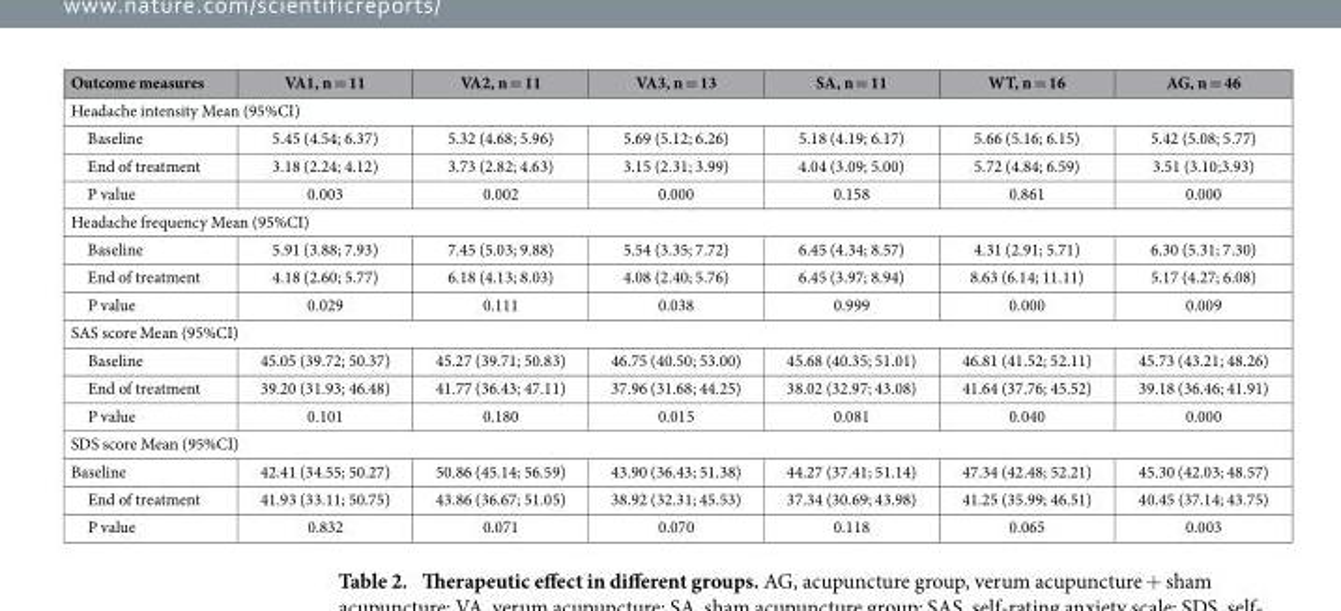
<table><thead><tr><td>Outcome measures</td><td>VA1, n = 11</td><td>VA2, n = 11</td><td>VA3, n = 13</td><td>SA, n = 11</td><td>WT, n = 16</td><td>AG, n = 46</td></tr></thead><tbody><tr><td colspan="7">Headache intensity Mean (95%CI)</td></tr><tr><td>Baseline</td><td>5.45 (4.54; 6.37)</td><td>5.32 (4.68; 5.96)</td><td>5.69 (5.12; 6.26)</td><td>5.18 (4.19; 6.17)</td><td>5.66 (5.16; 6.15)</td><td>5.42 (5.08; 5.77)</td></tr><tr><td>End of treatment</td><td>3.18 (2.24; 4.12)</td><td>3.73 (2.82; 4.63)</td><td>3.15 (2.31; 3.99)</td><td>4.04 (3.09; 5.00)</td><td>5.72 (4.84; 6.59)</td><td>3.51 (3.10;3.93)</td></tr><tr><td>P value</td><td>0.003</td><td>0.002</td><td>0.000</td><td>0.158</td><td>0.861</td><td>0.000</td></tr><tr><td colspan="7">Headache frequency Mean (95%CI)</td></tr><tr><td>Baseline</td><td>5.91 (3.88; 7.93)</td><td>7.45 (5.03; 9.88)</td><td>5.54 (3.35; 7.72)</td><td>6.45 (4.34; 8.57)</td><td>4.31 (2.91; 5.71)</td><td>6.30 (5.31; 7.30)</td></tr><tr><td>End of treatment</td><td>4.18 (2.60; 5.77)</td><td>6.18 (4.13; 8.03)</td><td>4.08 (2.40; 5.76)</td><td>6.45 (3.97; 8.94)</td><td>8.63 (6.14; 11.11)</td><td>5.17 (4.27; 6.08)</td></tr><tr><td>P value</td><td>0.029</td><td>0.111</td><td>0.038</td><td>0.999</td><td>0.000</td><td>0.009</td></tr><tr><td colspan="7">SAS score Mean (95%CI)</td></tr><tr><td>Baseline</td><td>45.05 (39.72; 50.37)</td><td>45.27 (39.71; 50.83)</td><td>46.75 (40.50; 53.00)</td><td>45.68 (40.35; 51.01)</td><td>46.81 (41.52; 52.11)</td><td>45.73 (43.21; 48.26)</td></tr><tr><td>End of treatment</td><td>39.20 (31.93; 46.48)</td><td>41.77 (36.43; 47.11)</td><td>37.96 (31.68; 44.25)</td><td>38.02 (32.97; 43.08)</td><td>41.64 (37.76; 45.52)</td><td>39.18 (36.46; 41.91)</td></tr><tr><td>P value</td><td>0.101</td><td>0.180</td><td>0.015</td><td>0.081</td><td>0.040</td><td>0.000</td></tr><tr><td colspan="7">SDS score Mean (95%CI)</td></tr><tr><td>Baseline</td><td>42.41 (34.55; 50.27)</td><td>50.86 (45.14; 56.59)</td><td>43.90 (36.43; 51.38)</td><td>44.27 (37.41; 51.14)</td><td>47.34 (42.48; 52.21)</td><td>45.30 (42.03; 48.57)</td></tr><tr><td>End of treatment</td><td>41.93 (33.11; 50.75)</td><td>43.86 (36.67; 51.05)</td><td>38.92 (32.31; 45.53)</td><td>37.34 (30.69; 43.98)</td><td>41.25 (35.99; 46.51)</td><td>40.45 (37.14; 43.75)</td></tr><tr><td>P value</td><td>0.832</td><td>0.071</td><td>0.070</td><td>0.118</td><td>0.065</td><td>0.003</td></tr></tbody></table>